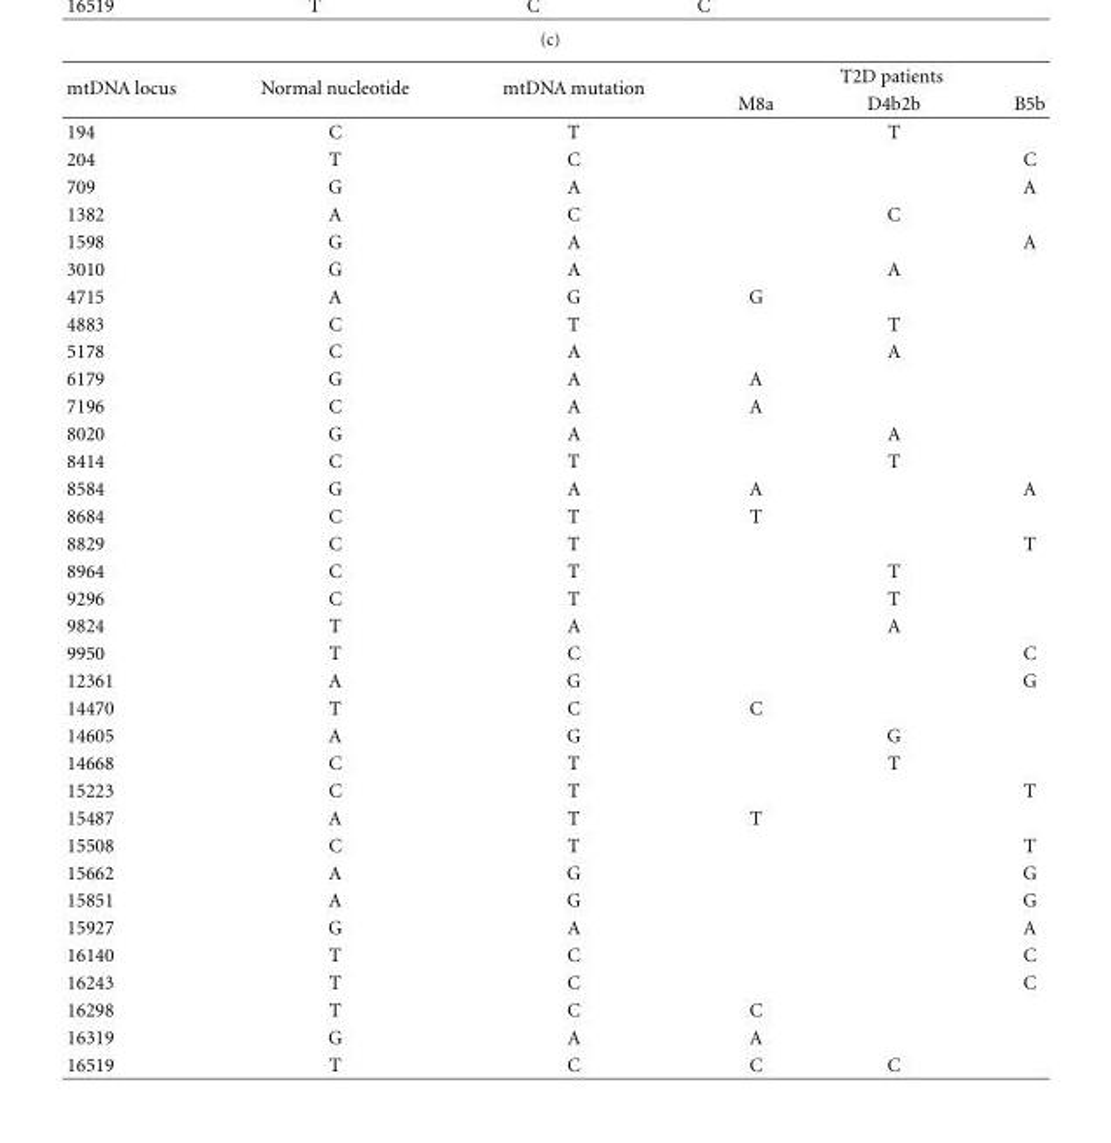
<table><thead><tr><td rowspan="2">mtDNA locus</td><td rowspan="2">Normal nucleotide</td><td rowspan="2">mtDNA mutation</td><td colspan="3">T2D patients</td></tr><tr><td>M8a</td><td>D4b2b</td><td>B5b</td></tr></thead><tbody><tr><td>194</td><td>C</td><td>T</td><td></td><td>T</td><td></td></tr><tr><td>204</td><td>T</td><td>C</td><td></td><td></td><td>C</td></tr><tr><td>709</td><td>G</td><td>A</td><td></td><td></td><td>A</td></tr><tr><td>1382</td><td>A</td><td>C</td><td></td><td>C</td><td></td></tr><tr><td>1598</td><td>G</td><td>A</td><td></td><td></td><td>A</td></tr><tr><td>3010</td><td>G</td><td>A</td><td></td><td>A</td><td></td></tr><tr><td>4715</td><td>A</td><td>G</td><td>G</td><td></td><td></td></tr><tr><td>4883</td><td>C</td><td>T</td><td></td><td>T</td><td></td></tr><tr><td>5178</td><td>C</td><td>A</td><td></td><td>A</td><td></td></tr><tr><td>6179</td><td>G</td><td>A</td><td>A</td><td></td><td></td></tr><tr><td>7196</td><td>C</td><td>A</td><td>A</td><td></td><td></td></tr><tr><td>8020</td><td>G</td><td>A</td><td></td><td>A</td><td></td></tr><tr><td>8414</td><td>C</td><td>T</td><td></td><td>T</td><td></td></tr><tr><td>8584</td><td>G</td><td>A</td><td>A</td><td></td><td>A</td></tr><tr><td>8684</td><td>C</td><td>T</td><td>T</td><td></td><td></td></tr><tr><td>8829</td><td>C</td><td>T</td><td></td><td></td><td>T</td></tr><tr><td>8964</td><td>C</td><td>T</td><td></td><td>T</td><td></td></tr><tr><td>9296</td><td>C</td><td>T</td><td></td><td>T</td><td></td></tr><tr><td>9824</td><td>T</td><td>A</td><td></td><td>A</td><td></td></tr><tr><td>9950</td><td>T</td><td>C</td><td></td><td></td><td>C</td></tr><tr><td>12361</td><td>A</td><td>G</td><td></td><td></td><td>G</td></tr><tr><td>14470</td><td>T</td><td>C</td><td>C</td><td></td><td></td></tr><tr><td>14605</td><td>A</td><td>G</td><td></td><td>G</td><td></td></tr><tr><td>14668</td><td>C</td><td>T</td><td></td><td>T</td><td></td></tr><tr><td>15223</td><td>C</td><td>T</td><td></td><td></td><td>T</td></tr><tr><td>15487</td><td>A</td><td>T</td><td>T</td><td></td><td></td></tr><tr><td>15508</td><td>C</td><td>T</td><td></td><td></td><td>T</td></tr><tr><td>15662</td><td>A</td><td>G</td><td></td><td></td><td>G</td></tr><tr><td>15851</td><td>A</td><td>G</td><td></td><td></td><td>G</td></tr><tr><td>15927</td><td>G</td><td>A</td><td></td><td></td><td>A</td></tr><tr><td>16140</td><td>T</td><td>C</td><td></td><td></td><td>C</td></tr><tr><td>16243</td><td>T</td><td>C</td><td></td><td></td><td>C</td></tr><tr><td>16298</td><td>T</td><td>C</td><td>C</td><td></td><td></td></tr><tr><td>16319</td><td>G</td><td>A</td><td>A</td><td></td><td></td></tr><tr><td>16519</td><td>T</td><td>C</td><td>C</td><td>C</td><td></td></tr></tbody></table>